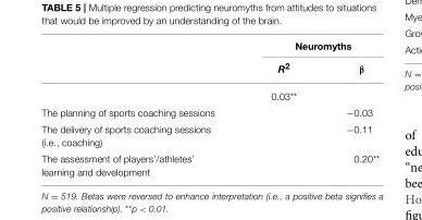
<table><thead><tr><td rowspan="2"></td><td colspan="2">Neuromyths</td></tr><tr><td>R<sup>2</sup></td><td>β</td></tr></thead><tbody><tr><td></td><td>0.03**</td><td></td></tr><tr><td>The planning of sports coaching sessions</td><td></td><td>−0.03</td></tr><tr><td>The delivery of sports coaching sessions (i.e., coaching)</td><td></td><td>−0.11</td></tr><tr><td>The assessment of players’/athletes’ learning and development</td><td></td><td>0.20**</td></tr></tbody></table>